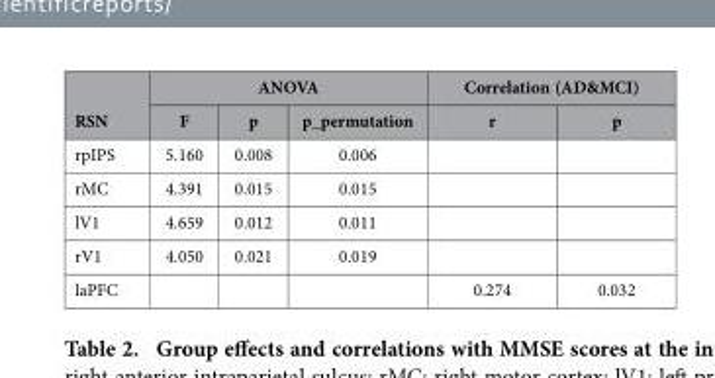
<table><thead><tr><td rowspan="2">RSN</td><td colspan="3">ANOVA</td><td colspan="2">Correlation (AD&amp;MCI)</td></tr><tr><td>F</td><td>p</td><td>p_permutation</td><td>r</td><td>p</td></tr></thead><tbody><tr><td>rpIPS</td><td>5.160</td><td>0.008</td><td>0.006</td><td></td><td></td></tr><tr><td>rMC</td><td>4.391</td><td>0.015</td><td>0.015</td><td></td><td></td></tr><tr><td>lV1</td><td>4.659</td><td>0.012</td><td>0.011</td><td></td><td></td></tr><tr><td>rV1</td><td>4.050</td><td>0.021</td><td>0.019</td><td></td><td></td></tr><tr><td>laPFC</td><td></td><td></td><td></td><td>0.274</td><td>0.032</td></tr></tbody></table>